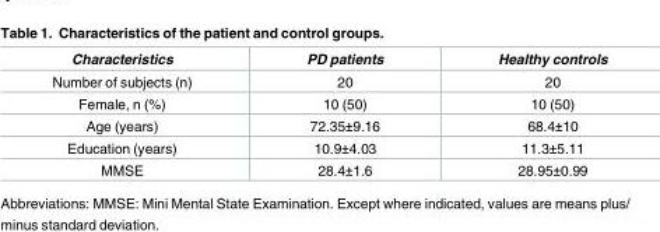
<table><thead><tr><td>Characteristics</td><td>PD patients</td><td>Healthy controls</td></tr></thead><tbody><tr><td>Number of subjects (n)</td><td>20</td><td>20</td></tr><tr><td>Female, n (%)</td><td>10 (50)</td><td>10 (50)</td></tr><tr><td>Age (years)</td><td>72.35±9.16</td><td>68.4±10</td></tr><tr><td>Education (years)</td><td>10.9±4.03</td><td>11.3±5.11</td></tr><tr><td>MMSE</td><td>28.4±1.6</td><td>28.95±0.99</td></tr></tbody></table>